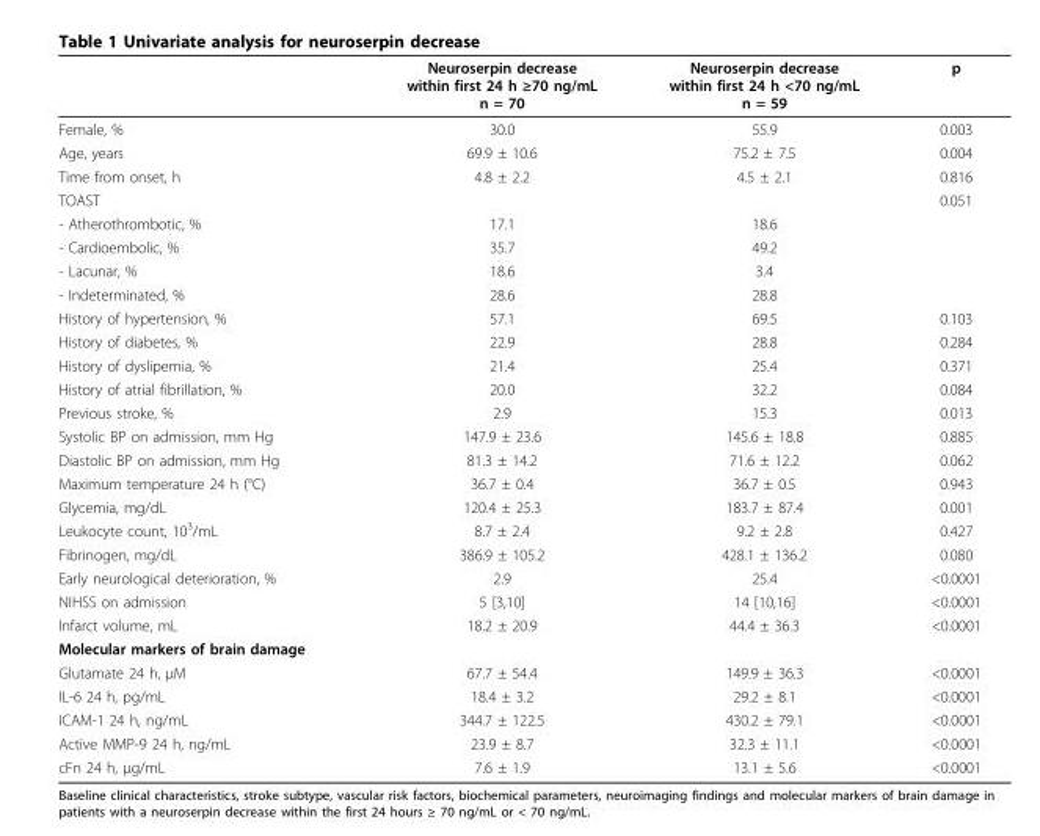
<table><thead><tr><td></td><td>Neuroserpin decrease within first 24 h ≥70 ng/mL n = 70</td><td>Neuroserpin decrease within first 24 h &lt;70 ng/mL n = 59</td><td>p</td></tr></thead><tbody><tr><td>Female, %</td><td>30.0</td><td>55.9</td><td>0.003</td></tr><tr><td>Age, years</td><td>69.9 ± 10.6</td><td>75.2 ± 7.5</td><td>0.004</td></tr><tr><td>Time from onset, h</td><td>4.8 ± 2.2</td><td>4.5 ± 2.1</td><td>0.816</td></tr><tr><td>TOAST</td><td></td><td></td><td>0.051</td></tr><tr><td>- Atherothrombotic, %</td><td>17.1</td><td>18.6</td><td></td></tr><tr><td>- Cardioembolic, %</td><td>35.7</td><td>49.2</td><td></td></tr><tr><td>- Lacunar, %</td><td>18.6</td><td>3.4</td><td></td></tr><tr><td>- Indeterminated, %</td><td>28.6</td><td>28.8</td><td></td></tr><tr><td>History of hypertension, %</td><td>57.1</td><td>69.5</td><td>0.103</td></tr><tr><td>History of diabetes, %</td><td>22.9</td><td>28.8</td><td>0.284</td></tr><tr><td>History of dyslipemia, %</td><td>21.4</td><td>25.4</td><td>0.371</td></tr><tr><td>History of atrial fibrillation, %</td><td>20.0</td><td>32.2</td><td>0.084</td></tr><tr><td>Previous stroke, %</td><td>2.9</td><td>15.3</td><td>0.013</td></tr><tr><td>Systolic BP on admission, mm Hg</td><td>147.9 ± 23.6</td><td>145.6 ± 18.8</td><td>0.885</td></tr><tr><td>Diastolic BP on admission, mm Hg</td><td>81.3 ± 14.2</td><td>71.6 ± 12.2</td><td>0.062</td></tr><tr><td>Maximum temperature 24 h (°C)</td><td>36.7 ± 0.4</td><td>36.7 ± 0.5</td><td>0.943</td></tr><tr><td>Glycemia, mg/dL</td><td>120.4 ± 25.3</td><td>183.7 ± 87.4</td><td>0.001</td></tr><tr><td>Leukocyte count, 10<sup>3</sup>/mL</td><td>8.7 ± 2.4</td><td>9.2 ± 2.8</td><td>0.427</td></tr><tr><td>Fibrinogen, mg/dL</td><td>386.9 ± 105.2</td><td>428.1 ± 136.2</td><td>0.080</td></tr><tr><td>Early neurological deterioration, %</td><td>2.9</td><td>25.4</td><td>&lt;0.0001</td></tr><tr><td>NIHSS on admission</td><td>5 [3,10]</td><td>14 [10,16]</td><td>&lt;0.0001</td></tr><tr><td>Infarct volume, mL</td><td>18.2 ± 20.9</td><td>44.4 ± 36.3</td><td>&lt;0.0001</td></tr><tr><td colspan="4">Molecular markers of brain damage</td></tr><tr><td>Glutamate 24 h, μM</td><td>67.7 ± 54.4</td><td>149.9 ± 36.3</td><td>&lt;0.0001</td></tr><tr><td>IL-6 24 h, pg/mL</td><td>18.4 ± 3.2</td><td>29.2 ± 8.1</td><td>&lt;0.0001</td></tr><tr><td>ICAM-1 24 h, ng/mL</td><td>344.7 ± 122.5</td><td>430.2 ± 79.1</td><td>&lt;0.0001</td></tr><tr><td>Active MMP-9 24 h, ng/mL</td><td>23.9 ± 8.7</td><td>32.3 ± 11.1</td><td>&lt;0.0001</td></tr><tr><td>cFn 24 h, μg/mL</td><td>7.6 ± 1.9</td><td>13.1 ± 5.6</td><td>&lt;0.0001</td></tr></tbody></table>